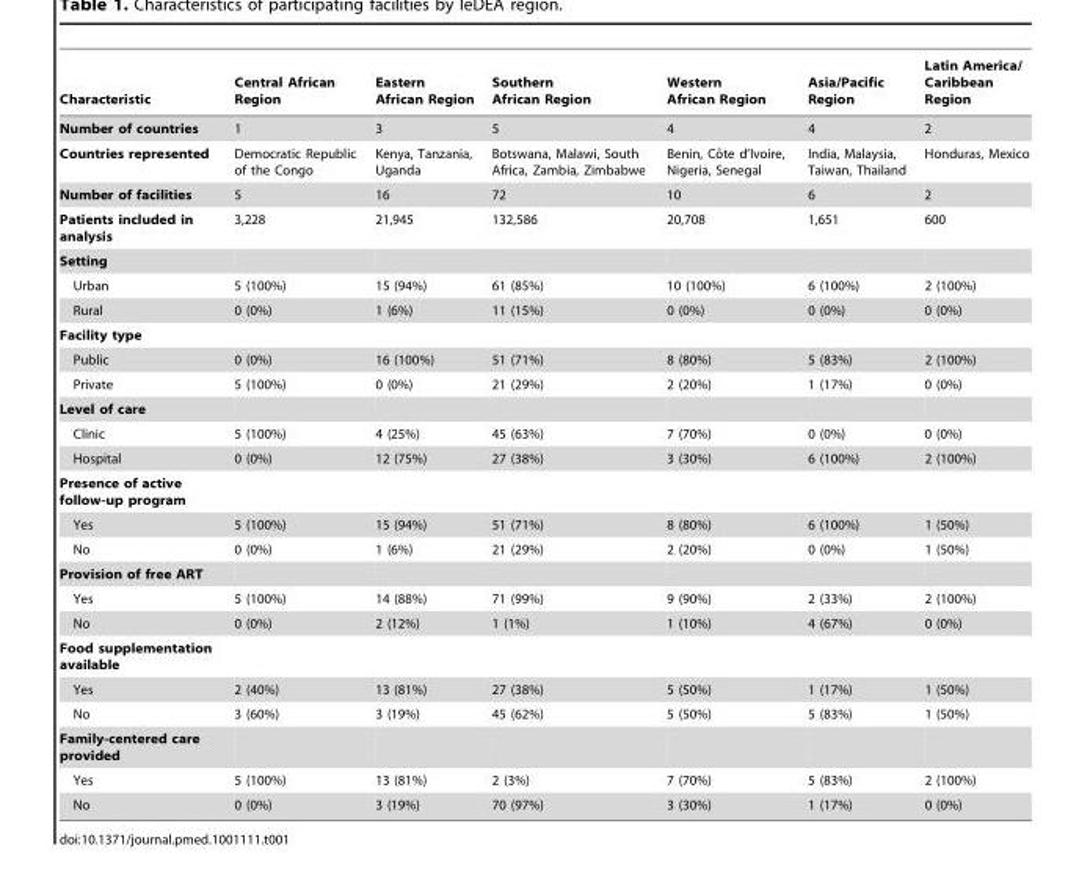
<table><thead><tr><td>Characteristic</td><td>Central African Region</td><td>Eastern African Region</td><td>Southern African Region</td><td>Western African Region</td><td>Asia/Pacific Region</td><td>Latin America/ Caribbean Region</td></tr></thead><tbody><tr><td>Number of countries</td><td>1</td><td>3</td><td>5</td><td>4</td><td>4</td><td>2</td></tr><tr><td>Countries represented</td><td>Democratic Republic of the Congo</td><td>Kenya, Tanzania, Uganda</td><td>Botswana, Malawi, South Africa, Zambia, Zimbabwe</td><td>Benin, Coˆte d’Ivoire, Nigeria, Senegal</td><td>India, Malaysia, Taiwan, Thailand</td><td>Honduras, Mexico</td></tr><tr><td>Number of facilities</td><td>5</td><td>16</td><td>72</td><td>10</td><td>6</td><td>2</td></tr><tr><td>Patients included in analysis</td><td>3,228</td><td>21,945</td><td>132,586</td><td>20,708</td><td>1,651</td><td>600</td></tr><tr><td colspan="7">Setting</td></tr><tr><td>Urban</td><td>5 (100%)</td><td>15 (94%)</td><td>61 (85%)</td><td>10 (100%)</td><td>6 (100%)</td><td>2 (100%)</td></tr><tr><td>Rural</td><td>0 (0%)</td><td>1 (6%)</td><td>11 (15%)</td><td>0 (0%)</td><td>0 (0%)</td><td>0 (0%)</td></tr><tr><td colspan="7">Facility type</td></tr><tr><td>Public</td><td>0 (0%)</td><td>16 (100%)</td><td>51 (71%)</td><td>8 (80%)</td><td>5 (83%)</td><td>2 (100%)</td></tr><tr><td>Private</td><td>5 (100%)</td><td>0 (0%)</td><td>21 (29%)</td><td>2 (20%)</td><td>1 (17%)</td><td>0 (0%)</td></tr><tr><td colspan="7">Level of care</td></tr><tr><td>Clinic</td><td>5 (100%)</td><td>4 (25%)</td><td>45 (63%)</td><td>7 (70%)</td><td>0 (0%)</td><td>0 (0%)</td></tr><tr><td>Hospital</td><td>0 (0%)</td><td>12 (75%)</td><td>27 (38%)</td><td>3 (30%)</td><td>6 (100%)</td><td>2 (100%)</td></tr><tr><td colspan="7">Presence of active follow-up program</td></tr><tr><td>Yes</td><td>5 (100%)</td><td>15 (94%)</td><td>51 (71%)</td><td>8 (80%)</td><td>6 (100%)</td><td>1 (50%)</td></tr><tr><td>No</td><td>0 (0%)</td><td>1 (6%)</td><td>21 (29%)</td><td>2 (20%)</td><td>0 (0%)</td><td>1 (50%)</td></tr><tr><td colspan="7">Provision of free ART</td></tr><tr><td>Yes</td><td>5 (100%)</td><td>14 (88%)</td><td>71 (99%)</td><td>9 (90%)</td><td>2 (33%)</td><td>2 (100%)</td></tr><tr><td>No</td><td>0 (0%)</td><td>2 (12%)</td><td>1 (1%)</td><td>1 (10%)</td><td>4 (67%)</td><td>0 (0%)</td></tr><tr><td colspan="7">Food supplementation available</td></tr><tr><td>Yes</td><td>2 (40%)</td><td>13 (81%)</td><td>27 (38%)</td><td>5 (50%)</td><td>1 (17%)</td><td>1 (50%)</td></tr><tr><td>No</td><td>3 (60%)</td><td>3 (19%)</td><td>45 (62%)</td><td>5 (50%)</td><td>5 (83%)</td><td>1 (50%)</td></tr><tr><td colspan="7">Family-centered care provided</td></tr><tr><td>Yes</td><td>5 (100%)</td><td>13 (81%)</td><td>2 (3%)</td><td>7 (70%)</td><td>5 (83%)</td><td>2 (100%)</td></tr><tr><td>No</td><td>0 (0%)</td><td>3 (19%)</td><td>70 (97%)</td><td>3 (30%)</td><td>1 (17%)</td><td>0 (0%)</td></tr></tbody></table>